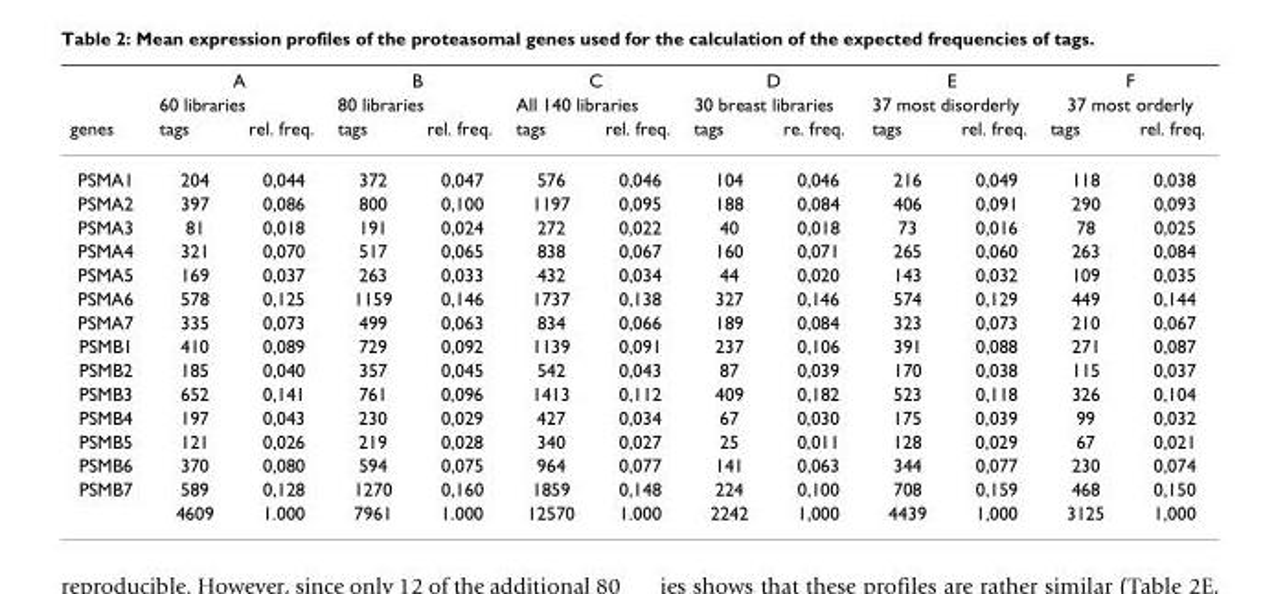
<table><thead><tr><td rowspan="3">genes</td><td rowspan="2" colspan="2">A 60 libraries</td><td rowspan="2" colspan="2">B 80 libraries</td><td rowspan="2" colspan="2">C All 140 libraries</td><td rowspan="2" colspan="2">D 30 breast libraries</td><td rowspan="2" colspan="2">E 37 most disorderly</td><td rowspan="2" colspan="2">F 37 most orderly</td></tr><tr></tr><tr><td>tags</td><td>rel. freq.</td><td>tags</td><td>rel. freq.</td><td>tags</td><td>rel. freq.</td><td>tags</td><td>re. freq.</td><td>tags</td><td>rel. freq.</td><td>tags</td><td>rel. freq.</td></tr></thead><tbody><tr><td>PSMA1</td><td>204</td><td>0,044</td><td>372</td><td>0,047</td><td>576</td><td>0,046</td><td>104</td><td>0,046</td><td>216</td><td>0,049</td><td>118</td><td>0,038</td></tr><tr><td>PSMA2</td><td>397</td><td>0,086</td><td>800</td><td>0,100</td><td>1197</td><td>0,095</td><td>188</td><td>0,084</td><td>406</td><td>0,091</td><td>290</td><td>0,093</td></tr><tr><td>PSMA3</td><td>81</td><td>0,018</td><td>191</td><td>0,024</td><td>272</td><td>0,022</td><td>40</td><td>0,018</td><td>73</td><td>0,016</td><td>78</td><td>0,025</td></tr><tr><td>PSMA4</td><td>321</td><td>0,070</td><td>517</td><td>0,065</td><td>838</td><td>0,067</td><td>160</td><td>0,071</td><td>265</td><td>0,060</td><td>263</td><td>0,084</td></tr><tr><td>PSMA5</td><td>169</td><td>0,037</td><td>263</td><td>0,033</td><td>432</td><td>0,034</td><td>44</td><td>0,020</td><td>143</td><td>0,032</td><td>109</td><td>0,035</td></tr><tr><td>PSMA6</td><td>578</td><td>0,125</td><td>1159</td><td>0,146</td><td>1737</td><td>0,138</td><td>327</td><td>0,146</td><td>574</td><td>0,129</td><td>449</td><td>0,144</td></tr><tr><td>PSMA7</td><td>335</td><td>0,073</td><td>499</td><td>0,063</td><td>834</td><td>0,066</td><td>189</td><td>0,084</td><td>323</td><td>0,073</td><td>210</td><td>0,067</td></tr><tr><td>PSMB1</td><td>410</td><td>0,089</td><td>729</td><td>0,092</td><td>1139</td><td>0,091</td><td>237</td><td>0,106</td><td>391</td><td>0,088</td><td>271</td><td>0,087</td></tr><tr><td>PSMB2</td><td>185</td><td>0,040</td><td>357</td><td>0,045</td><td>542</td><td>0,043</td><td>87</td><td>0,039</td><td>170</td><td>0,038</td><td>115</td><td>0,037</td></tr><tr><td>PSMB3</td><td>652</td><td>0,141</td><td>761</td><td>0,096</td><td>1413</td><td>0,112</td><td>409</td><td>0,182</td><td>523</td><td>0,118</td><td>326</td><td>0,104</td></tr><tr><td>PSMB4</td><td>197</td><td>0,043</td><td>230</td><td>0,029</td><td>427</td><td>0,034</td><td>67</td><td>0,030</td><td>175</td><td>0,039</td><td>99</td><td>0,032</td></tr><tr><td>PSMB5</td><td>121</td><td>0,026</td><td>219</td><td>0,028</td><td>340</td><td>0,027</td><td>25</td><td>0,011</td><td>128</td><td>0,029</td><td>67</td><td>0,021</td></tr><tr><td>PSMB6</td><td>370</td><td>0,080</td><td>594</td><td>0,075</td><td>964</td><td>0,077</td><td>141</td><td>0,063</td><td>344</td><td>0,077</td><td>230</td><td>0,074</td></tr><tr><td rowspan="2">PSMB7</td><td>589</td><td>0,128</td><td>1270</td><td>0,160</td><td>1859</td><td>0,148</td><td>224</td><td>0,100</td><td>708</td><td>0,159</td><td>468</td><td>0,150</td></tr><tr><td>4609</td><td>1.000</td><td>7961</td><td>1.000</td><td>12570</td><td>1.000</td><td>2242</td><td>1,000</td><td>4439</td><td>1,000</td><td>3125</td><td>1,000</td></tr></tbody></table>